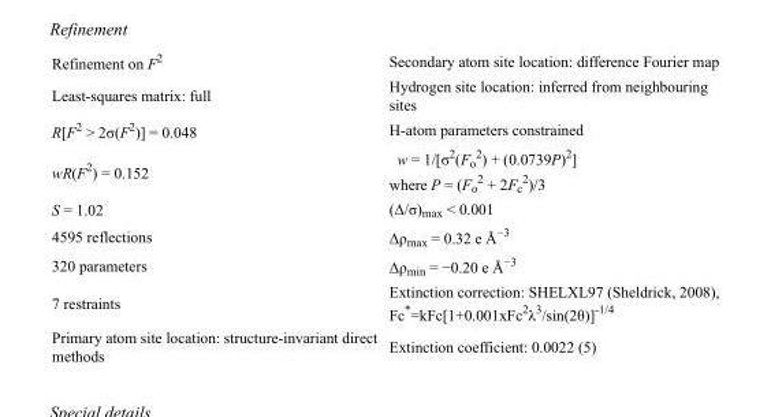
<table><tbody><tr><td>Refinement on F<sup>2</sup></td><td>Secondary atom site location: difference Fourier map</td></tr><tr><td>Least-squares matrix: full</td><td>Hydrogen site location: inferred from neighbouring sites</td></tr><tr><td>R[F<sup>2</sup> &gt; 2σ(F<sup>2</sup>)] = 0.048</td><td>H-atom parameters constrained</td></tr><tr><td>wR(F<sup>2</sup>) = 0.152</td><td>w = 1/[σ<sup>2</sup>(F<sub>o</sub> <sup>2</sup>) + (0.0739P)<sup>2</sup>] where P = (F<sub>o</sub> <sup>2</sup> + 2F<sub>c</sub> <sup>2</sup>)/3</td></tr><tr><td>S = 1.02</td><td>(Δ/σ)<sub>max</sub> &lt; 0.001</td></tr><tr><td>4595 reflections</td><td>Δρ<sub>max</sub> = 0.32 e Å<sup>−3</sup></td></tr><tr><td>320 parameters</td><td>Δρ<sub>min</sub> = −0.20 e Å<sup>−3</sup></td></tr><tr><td>7 restraints</td><td>Extinction correction: SHELXL97 (Sheldrick, 2008), Fc*=kFc[1+0.001xFc<sup>2</sup>λ<sup>3</sup>/sin(2θ)]<sup>-1/4</sup></td></tr><tr><td>Primary atom site location: structure-invariant direct methods</td><td>Extinction coefficient: 0.0022 (5)</td></tr></tbody></table>